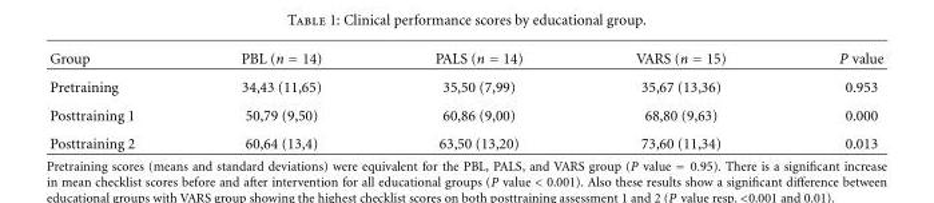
<table><thead><tr><td>Group</td><td>PBL (n = 14)</td><td>PALS (n = 14)</td><td>VARS (n = 15)</td><td>P value</td></tr></thead><tbody><tr><td>Pretraining</td><td>34,43 (11,65)</td><td>35,50 (7,99)</td><td>35,67 (13,36)</td><td>0.953</td></tr><tr><td>Posttraining 1</td><td>50,79 (9,50)</td><td>60,86 (9,00)</td><td>68,80 (9,63)</td><td>0.000</td></tr><tr><td>Posttraining 2</td><td>60,64 (13,4)</td><td>63,50 (13,20)</td><td>73,60 (11,34)</td><td>0.013</td></tr></tbody></table>